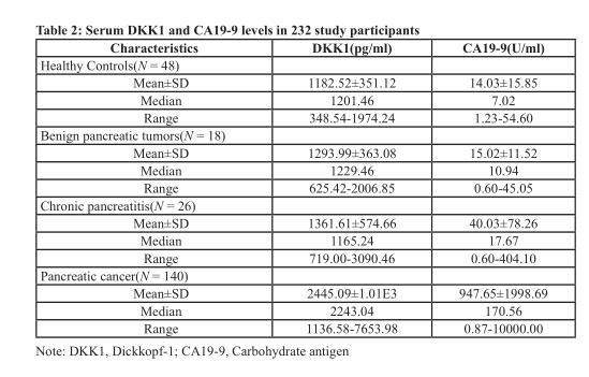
<table><thead><tr><td>Characteristics</td><td>DKK1(pg/ml)</td><td>CA19-9(U/ml)</td></tr></thead><tbody><tr><td colspan="3">Healthy Controls(N = 48)</td></tr><tr><td>Mean±SD</td><td>1182.52±351.12</td><td>14.03±15.85</td></tr><tr><td>Median</td><td>1201.46</td><td>7.02</td></tr><tr><td>Range</td><td>348.54-1974.24</td><td>1.23-54.60</td></tr><tr><td colspan="3">Benign pancreatic tumors(N = 18)</td></tr><tr><td>Mean±SD</td><td>1293.99±363.08</td><td>15.02±11.52</td></tr><tr><td>Median</td><td>1229.46</td><td>10.94</td></tr><tr><td>Range</td><td>625.42-2006.85</td><td>0.60-45.05</td></tr><tr><td colspan="3">Chronic pancreatitis(N = 26)</td></tr><tr><td>Mean±SD</td><td>1361.61±574.66</td><td>40.03±78.26</td></tr><tr><td>Median</td><td>1165.24</td><td>17.67</td></tr><tr><td>Range</td><td>719.00-3090.46</td><td>0.60-404.10</td></tr><tr><td colspan="3">Pancreatic cancer(N = 140)</td></tr><tr><td>Mean±SD</td><td>2445.09±1.01E3</td><td>947.65±1998.69</td></tr><tr><td>Median</td><td>2243.04</td><td>170.56</td></tr><tr><td>Range</td><td>1136.58-7653.98</td><td>0.87-10000.00</td></tr></tbody></table>